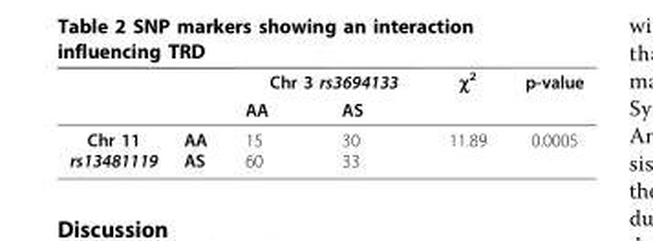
<table><thead><tr><td rowspan="2"></td><td rowspan="2"></td><td colspan="2">Chr 3 rs3694133</td><td rowspan="2">χ<sup>2</sup></td><td rowspan="2">p-value</td></tr><tr><td>AA</td><td>AS</td></tr></thead><tbody><tr><td>Chr 11 rs13481119</td><td>AA AS</td><td>15 60</td><td>30 33</td><td>11.89</td><td>0.0005</td></tr></tbody></table>